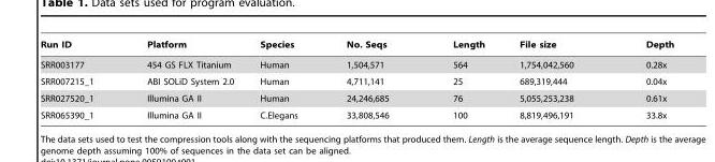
<table><thead><tr><td>Run ID</td><td>Platform</td><td>Species</td><td>No. Seqs</td><td>Length</td><td>File size</td><td>Depth</td></tr></thead><tbody><tr><td>SRR003177</td><td>454 GS FLX Titanium</td><td>Human</td><td>1,504,571</td><td>564</td><td>1,754,042,560</td><td>0.28x</td></tr><tr><td>SRR007215_1</td><td>ABI SOLiD System 2.0</td><td>Human</td><td>4,711,141</td><td>25</td><td>689,319,444</td><td>0.04x</td></tr><tr><td>SRR027520_1</td><td>Illumina GA II</td><td>Human</td><td>24,246,685</td><td>76</td><td>5,055,253,238</td><td>0.61x</td></tr><tr><td>SRR065390_1</td><td>Illumina GA II</td><td>C.Elegans</td><td>33,808,546</td><td>100</td><td>8,819,496,191</td><td>33.8x</td></tr></tbody></table>